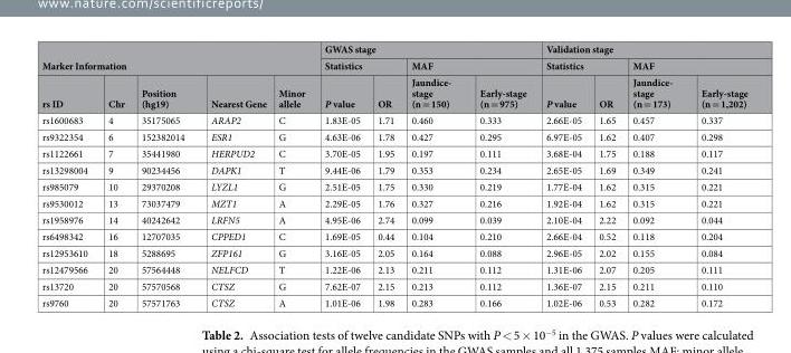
<table><thead><tr><td rowspan="2" colspan="5">Marker Information</td><td colspan="4">GWAS stage</td><td colspan="4">Validation stage</td></tr><tr><td colspan="2">Statistics</td><td colspan="2">MAF</td><td colspan="2">Statistics</td><td colspan="2">MAF</td></tr><tr><td>rs ID</td><td>Chr</td><td>Position (hg19)</td><td>Nearest Gene</td><td>Minor allele</td><td>P value</td><td>OR</td><td>Jaundice- stage (n = 150)</td><td>Early-stage (n = 975)</td><td>P value</td><td>OR</td><td>Jaundice- stage (n = 173)</td><td>Early-stage (n = 1,202)</td></tr></thead><tbody><tr><td>rs1600683</td><td>4</td><td>35175065</td><td>ARAP2</td><td>C</td><td>1.83E-05</td><td>1.71</td><td>0.460</td><td>0.333</td><td>2.66E-05</td><td>1.65</td><td>0.457</td><td>0.337</td></tr><tr><td>rs9322354</td><td>6</td><td>152382014</td><td>ESR1</td><td>G</td><td>4.63E-06</td><td>1.78</td><td>0.427</td><td>0.295</td><td>6.97E-05</td><td>1.62</td><td>0.407</td><td>0.298</td></tr><tr><td>rs1122661</td><td>7</td><td>35441980</td><td>HERPUD2</td><td>C</td><td>3.70E-05</td><td>1.95</td><td>0.197</td><td>0.111</td><td>3.68E-04</td><td>1.75</td><td>0.188</td><td>0.117</td></tr><tr><td>rs13298004</td><td>9</td><td>90234456</td><td>DAPK1</td><td>T</td><td>9.44E-06</td><td>1.79</td><td>0.353</td><td>0.234</td><td>2.65E-05</td><td>1.69</td><td>0.349</td><td>0.241</td></tr><tr><td>rs985079</td><td>10</td><td>29370208</td><td>LYZL1</td><td>G</td><td>2.51E-05</td><td>1.75</td><td>0.330</td><td>0.219</td><td>1.77E-04</td><td>1.62</td><td>0.315</td><td>0.221</td></tr><tr><td>rs9530012</td><td>13</td><td>73037479</td><td>MZT1</td><td>A</td><td>2.29E-05</td><td>1.76</td><td>0.327</td><td>0.216</td><td>1.92E-04</td><td>1.62</td><td>0.315</td><td>0.221</td></tr><tr><td>rs1958976</td><td>14</td><td>40242642</td><td>LRFN5</td><td>A</td><td>4.95E-06</td><td>2.74</td><td>0.099</td><td>0.039</td><td>2.10E-04</td><td>2.22</td><td>0.092</td><td>0.044</td></tr><tr><td>rs6498342</td><td>16</td><td>12707035</td><td>CPPED1</td><td>C</td><td>1.69E-05</td><td>0.44</td><td>0.104</td><td>0.210</td><td>2.66E-04</td><td>0.52</td><td>0.118</td><td>0.204</td></tr><tr><td>rs12953610</td><td>18</td><td>5288695</td><td>ZFP161</td><td>G</td><td>3.16E-05</td><td>2.05</td><td>0.164</td><td>0.088</td><td>2.96E-05</td><td>2.02</td><td>0.155</td><td>0.084</td></tr><tr><td>rs12479566</td><td>20</td><td>57564448</td><td>NELFCD</td><td>T</td><td>1.22E-06</td><td>2.13</td><td>0.211</td><td>0.112</td><td>1.31E-06</td><td>2.07</td><td>0.205</td><td>0.111</td></tr><tr><td>rs13720</td><td>20</td><td>57570568</td><td>CTSZ</td><td>G</td><td>7.62E-07</td><td>2.15</td><td>0.213</td><td>0.112</td><td>1.36E-07</td><td>2.15</td><td>0.211</td><td>0.110</td></tr><tr><td>rs9760</td><td>20</td><td>57571763</td><td>CTSZ</td><td>A</td><td>1.01E-06</td><td>1.98</td><td>0.283</td><td>0.166</td><td>1.02E-06</td><td>0.53</td><td>0.282</td><td>0.172</td></tr></tbody></table>